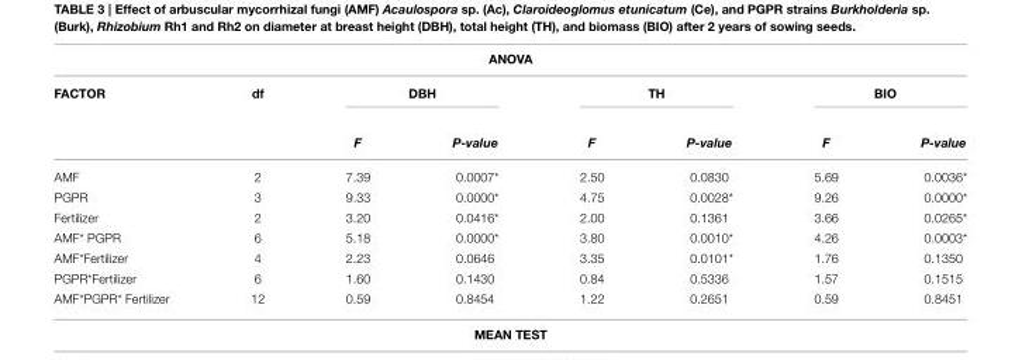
<table><thead><tr><td colspan="8">ANOVA</td></tr><tr><td rowspan="2">FACTOR</td><td rowspan="2">df</td><td colspan="2">DBH</td><td colspan="2">TH</td><td colspan="2">BIO</td></tr><tr><td>F</td><td>P-value</td><td>F</td><td>P-value</td><td>F</td><td>P-value</td></tr></thead><tbody><tr><td>AMF</td><td>2</td><td>7.39</td><td>0.0007*</td><td>2.50</td><td>0.0830</td><td>5.69</td><td>0.0036*</td></tr><tr><td>PGPR</td><td>3</td><td>9.33</td><td>0.0000*</td><td>4.75</td><td>0.0028*</td><td>9.26</td><td>0.0000*</td></tr><tr><td>Fertilizer</td><td>2</td><td>3.20</td><td>0.0416*</td><td>2.00</td><td>0.1361</td><td>3.66</td><td>0.0265*</td></tr><tr><td>AMF* PGPR</td><td>6</td><td>5.18</td><td>0.0000*</td><td>3.80</td><td>0.0010*</td><td>4.26</td><td>0.0003*</td></tr><tr><td>AMF*Fertilizer</td><td>4</td><td>2.23</td><td>0.0646</td><td>3.35</td><td>0.0101*</td><td>1.76</td><td>0.1350</td></tr><tr><td>PGPR*Fertilizer</td><td>6</td><td>1.60</td><td>0.1430</td><td>0.84</td><td>0.5336</td><td>1.57</td><td>0.1515</td></tr><tr><td>AMF*PGPR* Fertilizer</td><td>12</td><td>0.59</td><td>0.8454</td><td>1.22</td><td>0.2651</td><td>0.59</td><td>0.8451</td></tr></tbody></table>